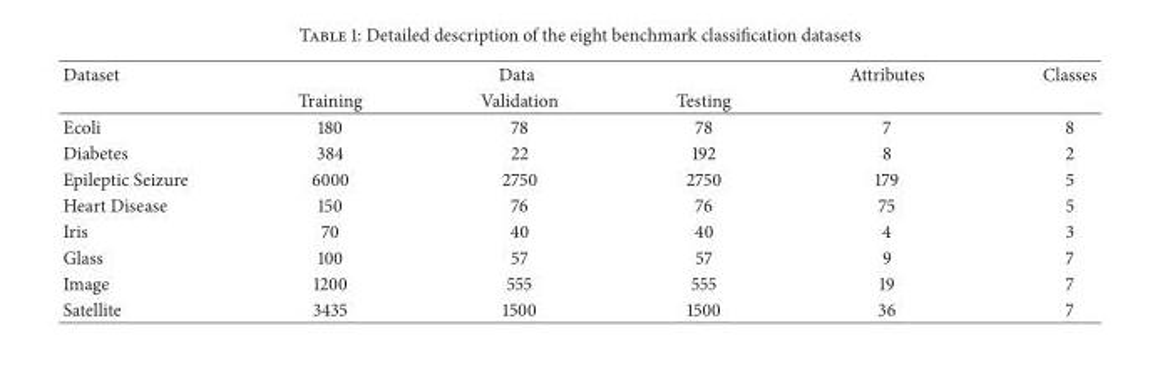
<table><thead><tr><td rowspan="2">Dataset</td><td colspan="3">Data</td><td rowspan="2">Attributes</td><td rowspan="2">Classes</td></tr><tr><td>Training</td><td>Validation</td><td>Testing</td></tr></thead><tbody><tr><td>Ecoli</td><td>180</td><td>78</td><td>78</td><td>7</td><td>8</td></tr><tr><td>Diabetes</td><td>384</td><td>22</td><td>192</td><td>8</td><td>2</td></tr><tr><td>Epileptic Seizure</td><td>6000</td><td>2750</td><td>2750</td><td>179</td><td>5</td></tr><tr><td>Heart Disease</td><td>150</td><td>76</td><td>76</td><td>75</td><td>5</td></tr><tr><td>Iris</td><td>70</td><td>40</td><td>40</td><td>4</td><td>3</td></tr><tr><td>Glass</td><td>100</td><td>57</td><td>57</td><td>9</td><td>7</td></tr><tr><td>Image</td><td>1200</td><td>555</td><td>555</td><td>19</td><td>7</td></tr><tr><td>Satellite</td><td>3435</td><td>1500</td><td>1500</td><td>36</td><td>7</td></tr></tbody></table>